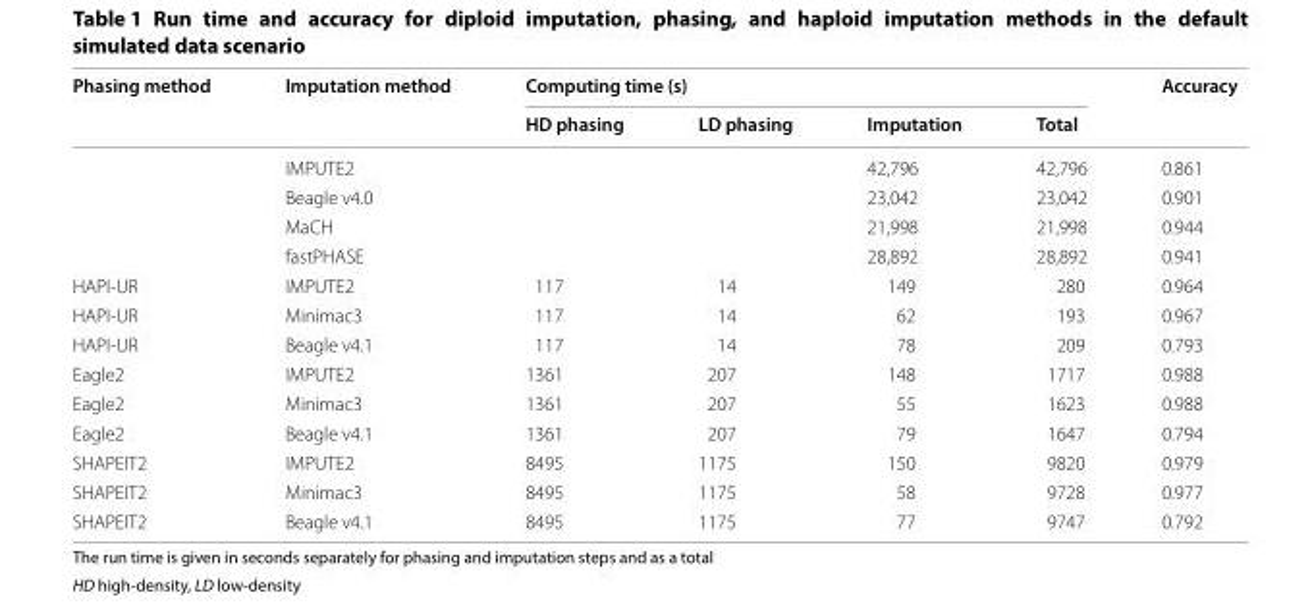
<table><thead><tr><td rowspan="2">Phasing method</td><td rowspan="2">Imputation method</td><td colspan="4">Computing time (s)</td><td rowspan="2">Accuracy</td></tr><tr><td>HD phasing</td><td>LD phasing</td><td>Imputation</td><td>Total</td></tr></thead><tbody><tr><td rowspan="4"></td><td>IMPUTE2</td><td></td><td></td><td>42,796</td><td>42,796</td><td>0.861</td></tr><tr><td>Beagle v4.0</td><td></td><td></td><td>23,042</td><td>23,042</td><td>0.901</td></tr><tr><td>MaCH</td><td></td><td></td><td>21,998</td><td>21,998</td><td>0.944</td></tr><tr><td>fastPHASE</td><td></td><td></td><td>28,892</td><td>28,892</td><td>0.941</td></tr><tr><td>HAPI‑UR</td><td>IMPUTE2</td><td>117</td><td>14</td><td>149</td><td>280</td><td>0.964</td></tr><tr><td>HAPI‑UR</td><td>Minimac3</td><td>117</td><td>14</td><td>62</td><td>193</td><td>0.967</td></tr><tr><td>HAPI‑UR</td><td>Beagle v4.1</td><td>117</td><td>14</td><td>78</td><td>209</td><td>0.793</td></tr><tr><td>Eagle2</td><td>IMPUTE2</td><td>1361</td><td>207</td><td>148</td><td>1717</td><td>0.988</td></tr><tr><td>Eagle2</td><td>Minimac3</td><td>1361</td><td>207</td><td>55</td><td>1623</td><td>0.988</td></tr><tr><td>Eagle2</td><td>Beagle v4.1</td><td>1361</td><td>207</td><td>79</td><td>1647</td><td>0.794</td></tr><tr><td>SHAPEIT2</td><td>IMPUTE2</td><td>8495</td><td>1175</td><td>150</td><td>9820</td><td>0.979</td></tr><tr><td>SHAPEIT2</td><td>Minimac3</td><td>8495</td><td>1175</td><td>58</td><td>9728</td><td>0.977</td></tr><tr><td>SHAPEIT2</td><td>Beagle v4.1</td><td>8495</td><td>1175</td><td>77</td><td>9747</td><td>0.792</td></tr></tbody></table>